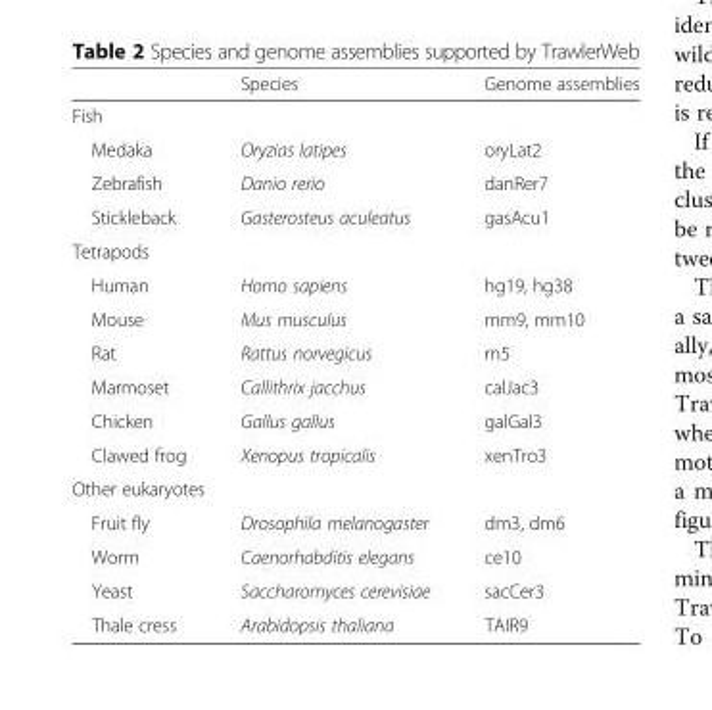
<table><thead><tr><td></td><td>Species</td><td>Genome assemblies</td></tr></thead><tbody><tr><td colspan="3">Fish</td></tr><tr><td>Medaka</td><td>Oryzias latipes</td><td>oryLat2</td></tr><tr><td>Zebrafish</td><td>Danio rerio</td><td>danRer7</td></tr><tr><td>Stickleback</td><td>Gasterosteus aculeatus</td><td>gasAcu1</td></tr><tr><td colspan="3">Tetrapods</td></tr><tr><td>Human</td><td>Homo sapiens</td><td>hg19, hg38</td></tr><tr><td>Mouse</td><td>Mus musculus</td><td>mm9, mm10</td></tr><tr><td>Rat</td><td>Rattus norvegicus</td><td>rn5</td></tr><tr><td>Marmoset</td><td>Callithrix jacchus</td><td>calJac3</td></tr><tr><td>Chicken</td><td>Gallus gallus</td><td>galGal3</td></tr><tr><td>Clawed frog</td><td>Xenopus tropicalis</td><td>xenTro3</td></tr><tr><td colspan="3">Other eukaryotes</td></tr><tr><td>Fruit fly</td><td>Drosophila melanogaster</td><td>dm3, dm6</td></tr><tr><td>Worm</td><td>Caenorhabditis elegans</td><td>ce10</td></tr><tr><td>Yeast</td><td>Saccharomyces cerevisiae</td><td>sacCer3</td></tr><tr><td>Thale cress</td><td>Arabidopsis thaliana</td><td>TAIR9</td></tr></tbody></table>